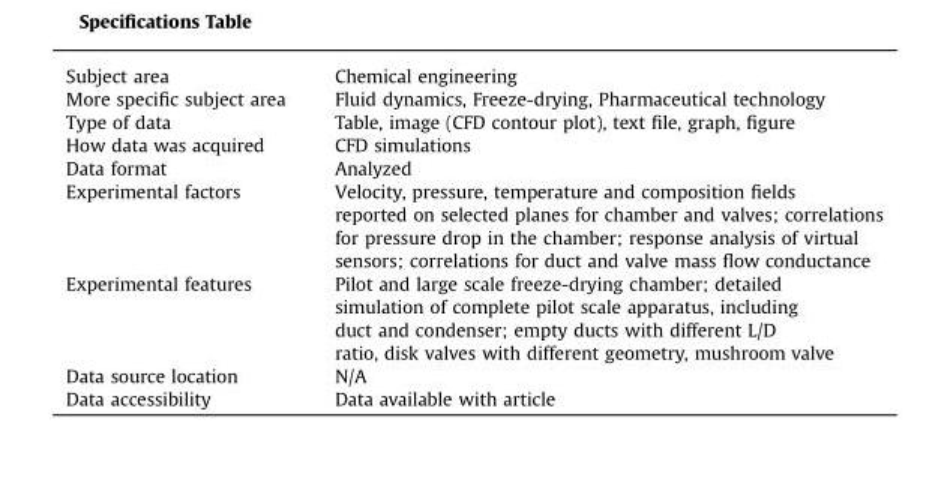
<table><tbody><tr><td>Subject area</td><td>Chemical engineering</td></tr><tr><td>More specific subject area</td><td>Fluid dynamics, Freeze-drying, Pharmaceutical technology</td></tr><tr><td>Type of data</td><td>Table, image (CFD contour plot), text file, graph, figure</td></tr><tr><td>How data was acquired</td><td>CFD simulations</td></tr><tr><td>Data format</td><td>Analyzed</td></tr><tr><td>Experimental factors</td><td>Velocity, pressure, temperature and composition fields reported on selected planes for chamber and valves; correlations for pressure drop in the chamber; response analysis of virtual sensors; correlations for duct and valve mass flow conductance</td></tr><tr><td>Experimental features</td><td>Pilot and large scale freeze-drying chamber; detailed simulation of complete pilot scale apparatus, including duct and condenser; empty ducts with different L/D ratio, disk valves with different geometry, mushroom valve</td></tr><tr><td>Data source location</td><td>N/A</td></tr><tr><td>Data accessibility</td><td>Data available with article</td></tr></tbody></table>